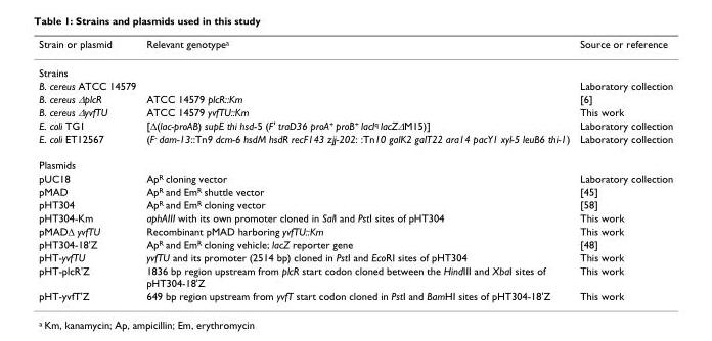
<table><thead><tr><td>Strain or plasmid</td><td>Relevant genotype<sup>a</sup></td><td>Source or reference</td></tr></thead><tbody><tr><td colspan="3">Strains</td></tr><tr><td>B. cereus ATCC 14579</td><td></td><td>Laboratory collection</td></tr><tr><td>B. cereus ΔplcR</td><td>ATCC 14579 plcR::Km</td><td>[6]</td></tr><tr><td>B. cereus ΔyvfTU</td><td>ATCC 14579 yvfTU::Km</td><td>This work</td></tr><tr><td>E. coli TG1</td><td>[Δ(lac-proAB) supE thi hsd-5 (F&#x27; traD36 proA<sup>+</sup> proB<sup>+</sup> lacI<sup>q</sup> lacZΔM15)]</td><td>Laboratory collection</td></tr><tr><td>E. coli ET12567</td><td>(F<sup>-</sup> dam-13::Tn9 dcm-6 hsdM hsdR recF143 zjj-202: :Tn10 galK2 galT22 ara14 pacY1 xyl-5 leuB6 thi-1)</td><td>Laboratory collection</td></tr><tr><td colspan="3">Plasmids</td></tr><tr><td>pUC18</td><td>Ap<sup>R</sup> cloning vector</td><td>Laboratory collection</td></tr><tr><td>pMAD</td><td>Ap<sup>R</sup> and Em<sup>R</sup> shuttle vector</td><td>[45]</td></tr><tr><td>pHT304</td><td>Ap<sup>R</sup> and Em<sup>R</sup> cloning vector</td><td>[58]</td></tr><tr><td>pHT304-Km</td><td>aphAIII with its own promoter cloned in SalI and PstI sites of pHT304</td><td>This work</td></tr><tr><td>pMADΔ yvfTU</td><td>Recombinant pMAD harboring yvfTU::Km</td><td>This work</td></tr><tr><td>pHT304-18&#x27;Z</td><td>Ap<sup>R</sup> and Em<sup>R</sup> cloning vehicle; lacZ reporter gene</td><td>[48]</td></tr><tr><td>pHT-yvfTU</td><td>yvfTU and its promoter (2514 bp) cloned in PstI and EcoRI sites of pHT304</td><td>This work</td></tr><tr><td>pHT-plcR&#x27;Z</td><td>1836 bp region upstream from plcR start codon cloned between the HindIII and XbaI sites of pHT304-18&#x27;Z</td><td>This work</td></tr><tr><td>pHT-yvfT&#x27;Z</td><td>649 bp region upstream from yvfT start codon cloned in PstI and BamHI sites of pHT304-18&#x27;Z</td><td>This work</td></tr></tbody></table>